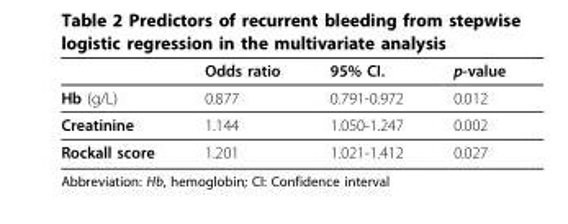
<table><thead><tr><td></td><td>Odds ratio</td><td>95% CI.</td><td>p-value</td></tr></thead><tbody><tr><td>Hb (g/L)</td><td>0.877</td><td>0.791-0.972</td><td>0.012</td></tr><tr><td>Creatinine</td><td>1.144</td><td>1.050-1.247</td><td>0.002</td></tr><tr><td>Rockall score</td><td>1.201</td><td>1.021-1.412</td><td>0.027</td></tr></tbody></table>